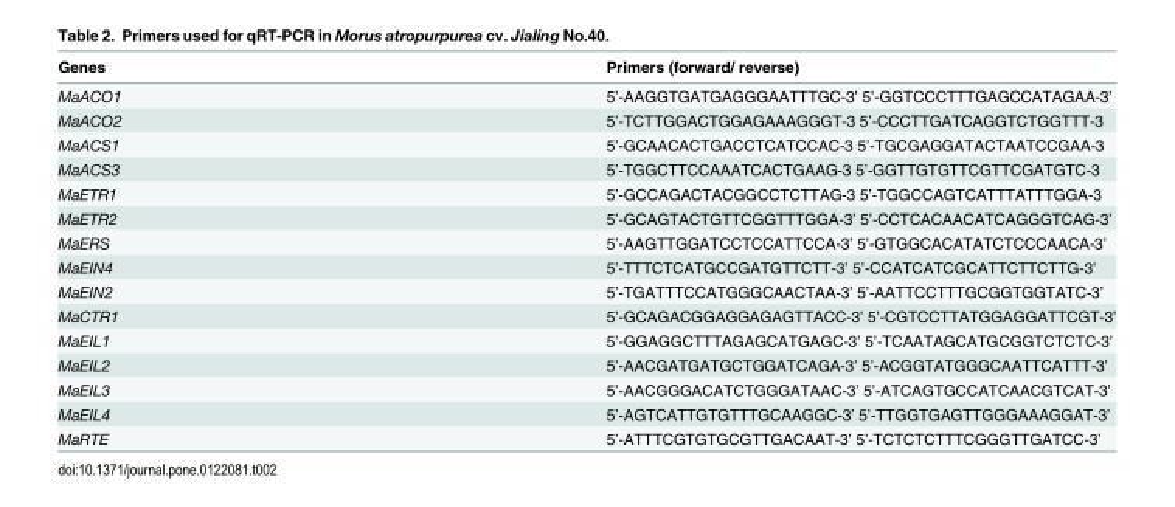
<table><thead><tr><td>Genes</td><td>Primers (forward/ reverse)</td></tr></thead><tbody><tr><td>MaACO1</td><td>5’-AAGGTGATGAGGGAATTTGC-3’ 5’-GGTCCCTTTGAGCCATAGAA-3’</td></tr><tr><td>MaACO2</td><td>5’-TCTTGGACTGGAGAAAGGGT-3 5’-CCCTTGATCAGGTCTGGTTT-3</td></tr><tr><td>MaACS1</td><td>5’-GCAACACTGACCTCATCCAC-3 5’-TGCGAGGATACTAATCCGAA-3</td></tr><tr><td>MaACS3</td><td>5’-TGGCTTCCAAATCACTGAAG-3 5’-GGTTGTGTTCGTTCGATGTC-3</td></tr><tr><td>MaETR1</td><td>5’-GCCAGACTACGGCCTCTTAG-3 5’-TGGCCAGTCATTTATTTGGA-3</td></tr><tr><td>MaETR2</td><td>5’-GCAGTACTGTTCGGTTTGGA-3’ 5’-CCTCACAACATCAGGGTCAG-3’</td></tr><tr><td>MaERS</td><td>5’-AAGTTGGATCCTCCATTCCA-3’ 5’-GTGGCACATATCTCCCAACA-3’</td></tr><tr><td>MaEIN4</td><td>5’-TTTCTCATGCCGATGTTCTT-3’ 5’-CCATCATCGCATTCTTCTTG-3’</td></tr><tr><td>MaEIN2</td><td>5’-TGATTTCCATGGGCAACTAA-3’ 5’-AATTCCTTTGCGGTGGTATC-3’</td></tr><tr><td>MaCTR1</td><td>5’-GCAGACGGAGGAGAGTTACC-3’ 5’-CGTCCTTATGGAGGATTCGT-3’</td></tr><tr><td>MaEIL1</td><td>5’-GGAGGCTTTAGAGCATGAGC-3’ 5’-TCAATAGCATGCGGTCTCTC-3’</td></tr><tr><td>MaEIL2</td><td>5’-AACGATGATGCTGGATCAGA-3’ 5’-ACGGTATGGGCAATTCATTT-3’</td></tr><tr><td>MaEIL3</td><td>5’-AACGGGACATCTGGGATAAC-3’ 5’-ATCAGTGCCATCAACGTCAT-3’</td></tr><tr><td>MaEIL4</td><td>5’-AGTCATTGTGTTTGCAAGGC-3’ 5’-TTGGTGAGTTGGGAAAGGAT-3’</td></tr><tr><td>MaRTE</td><td>5’-ATTTCGTGTGCGTTGACAAT-3’ 5’-TCTCTCTTTCGGGTTGATCC-3’</td></tr></tbody></table>